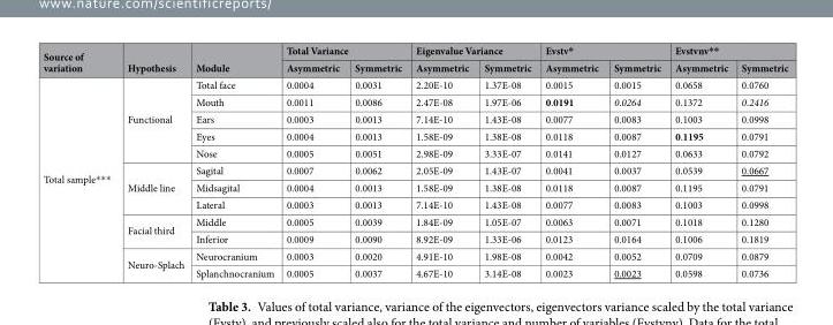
<table><thead><tr><td rowspan="2">Source of variation</td><td rowspan="2">Hypothesis</td><td rowspan="2">Module</td><td colspan="2">Total Variance</td><td colspan="2">Eigenvalue Variance</td><td colspan="2">Evstv*</td><td colspan="2">Evstvnv**</td></tr><tr><td>Asymmetric</td><td>Symmetric</td><td>Asymmetric</td><td>Symmetric</td><td>Asymmetric</td><td>Symmetric</td><td>Asymmetric</td><td>Symmetric</td></tr></thead><tbody><tr><td rowspan="12">Total sample***</td><td rowspan="5">Functional</td><td>Total face</td><td>0.0004</td><td>0.0031</td><td>2.20E-10</td><td>1.37E-08</td><td>0.0015</td><td>0.0015</td><td>0.0658</td><td>0.0760</td></tr><tr><td>Mouth</td><td>0.0011</td><td>0.0086</td><td>2.47E-08</td><td>1.97E-06</td><td>0.0191</td><td>0.0264</td><td>0.1372</td><td>0.2416</td></tr><tr><td>Ears</td><td>0.0003</td><td>0.0013</td><td>7.14E-10</td><td>1.43E-08</td><td>0.0077</td><td>0.0083</td><td>0.1003</td><td>0.0998</td></tr><tr><td>Eyes</td><td>0.0004</td><td>0.0013</td><td>1.58E-09</td><td>1.38E-08</td><td>0.0118</td><td>0.0087</td><td>0.1195</td><td>0.0791</td></tr><tr><td>Nose</td><td>0.0005</td><td>0.0051</td><td>2.98E-09</td><td>3.33E-07</td><td>0.0141</td><td>0.0127</td><td>0.0633</td><td>0.0792</td></tr><tr><td rowspan="3">Middle line</td><td>Sagital</td><td>0.0007</td><td>0.0062</td><td>2.05E-09</td><td>1.43E-07</td><td>0.0041</td><td>0.0037</td><td>0.0539</td><td>0.0667</td></tr><tr><td>Midsagital</td><td>0.0004</td><td>0.0013</td><td>1.58E-09</td><td>1.38E-08</td><td>0.0118</td><td>0.0087</td><td>0.1195</td><td>0.0791</td></tr><tr><td>Lateral</td><td>0.0003</td><td>0.0013</td><td>7.14E-10</td><td>1.43E-08</td><td>0.0077</td><td>0.0083</td><td>0.1003</td><td>0.0998</td></tr><tr><td rowspan="2">Facial third</td><td>Middle</td><td>0.0005</td><td>0.0039</td><td>1.84E-09</td><td>1.05E-07</td><td>0.0063</td><td>0.0071</td><td>0.1018</td><td>0.1280</td></tr><tr><td>Inferior</td><td>0.0009</td><td>0.0090</td><td>8.92E-09</td><td>1.33E-06</td><td>0.0123</td><td>0.0164</td><td>0.1006</td><td>0.1819</td></tr><tr><td rowspan="2">Neuro-Splach</td><td>Neurocranium</td><td>0.0003</td><td>0.0020</td><td>4.91E-10</td><td>1.98E-08</td><td>0.0042</td><td>0.0052</td><td>0.0709</td><td>0.0879</td></tr><tr><td>Splanchnocranium</td><td>0.0005</td><td>0.0037</td><td>4.67E-10</td><td>3.14E-08</td><td>0.0023</td><td>0.0023</td><td>0.0598</td><td>0.0736</td></tr></tbody></table>